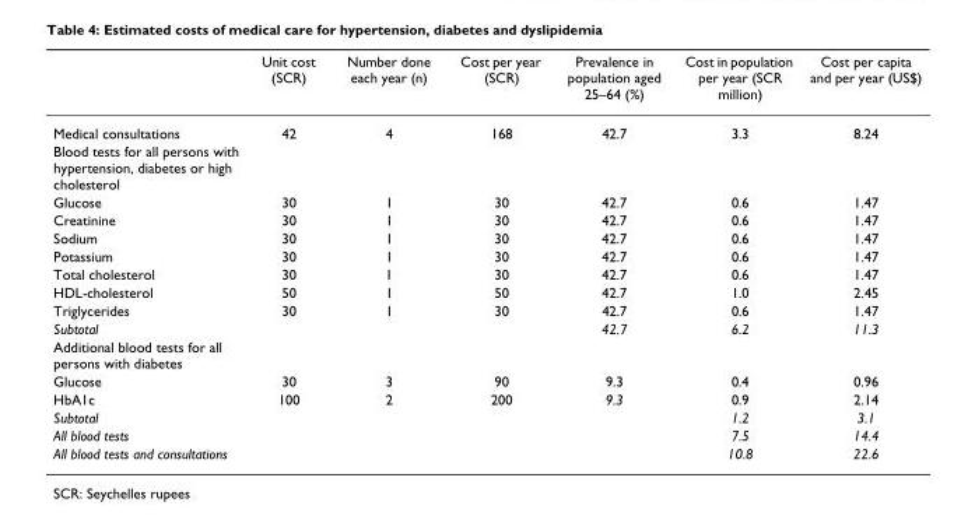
<table><thead><tr><td></td><td>Unit cost (SCR)</td><td>Number done each year (n)</td><td>Cost per year (SCR)</td><td>Prevalence in population aged 25–64 (%)</td><td>Cost in population per year (SCR million)</td><td>Cost per capita and per year (US$)</td></tr></thead><tbody><tr><td>Medical consultations</td><td>42</td><td>4</td><td>168</td><td>42.7</td><td>3.3</td><td>8.24</td></tr><tr><td colspan="7">Blood tests for all persons with hypertension, diabetes or high cholesterol</td></tr><tr><td>Glucose</td><td>30</td><td>1</td><td>30</td><td>42.7</td><td>0.6</td><td>1.47</td></tr><tr><td>Creatinine</td><td>30</td><td>1</td><td>30</td><td>42.7</td><td>0.6</td><td>1.47</td></tr><tr><td>Sodium</td><td>30</td><td>1</td><td>30</td><td>42.7</td><td>0.6</td><td>1.47</td></tr><tr><td>Potassium</td><td>30</td><td>1</td><td>30</td><td>42.7</td><td>0.6</td><td>1.47</td></tr><tr><td>Total cholesterol</td><td>30</td><td>1</td><td>30</td><td>42.7</td><td>0.6</td><td>1.47</td></tr><tr><td>HDL-cholesterol</td><td>50</td><td>1</td><td>50</td><td>42.7</td><td>1.0</td><td>2.45</td></tr><tr><td>Triglycerides</td><td>30</td><td>1</td><td>30</td><td>42.7</td><td>0.6</td><td>1.47</td></tr><tr><td>Subtotal</td><td></td><td></td><td></td><td>42.7</td><td>6.2</td><td>11.3</td></tr><tr><td colspan="7">Additional blood tests for all persons with diabetes</td></tr><tr><td>Glucose</td><td>30</td><td>3</td><td>90</td><td>9.3</td><td>0.4</td><td>0.96</td></tr><tr><td>HbA1c</td><td>100</td><td>2</td><td>200</td><td>9.3</td><td>0.9</td><td>2.14</td></tr><tr><td>Subtotal</td><td></td><td></td><td></td><td></td><td>1.2</td><td>3.1</td></tr><tr><td>All blood tests</td><td></td><td></td><td></td><td></td><td>7.5</td><td>14.4</td></tr><tr><td>All blood tests and consultations</td><td></td><td></td><td></td><td></td><td>10.8</td><td>22.6</td></tr></tbody></table>